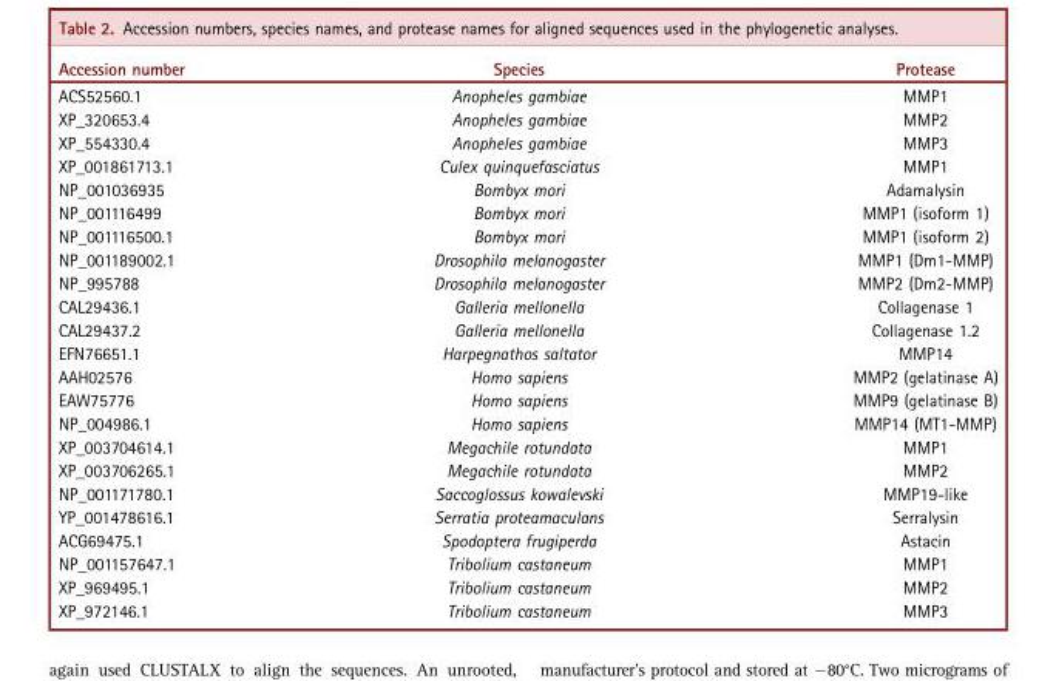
<table><thead><tr><td>Accession number</td><td>Species</td><td>Protease</td></tr></thead><tbody><tr><td>ACS52560.1</td><td>Anopheles gambiae</td><td>MMP1</td></tr><tr><td>XP_320653.4</td><td>Anopheles gambiae</td><td>MMP2</td></tr><tr><td>XP_554330.4</td><td>Anopheles gambiae</td><td>MMP3</td></tr><tr><td>XP_001861713.1</td><td>Culex quinquefasciatus</td><td>MMP1</td></tr><tr><td>NP_001036935</td><td>Bombyx mori</td><td>Adamalysin</td></tr><tr><td>NP_001116499</td><td>Bombyx mori</td><td>MMP1 (isoform 1)</td></tr><tr><td>NP_001116500.1</td><td>Bombyx mori</td><td>MMP1 (isoform 2)</td></tr><tr><td>NP_001189002.1</td><td>Drosophila melanogaster</td><td>MMP1 (Dm1‐MMP)</td></tr><tr><td>NP_995788</td><td>Drosophila melanogaster</td><td>MMP2 (Dm2‐MMP)</td></tr><tr><td>CAL29436.1</td><td>Galleria mellonella</td><td>Collagenase 1</td></tr><tr><td>CAL29437.2</td><td>Galleria mellonella</td><td>Collagenase 1.2</td></tr><tr><td>EFN76651.1</td><td>Harpegnathos saltator</td><td>MMP14</td></tr><tr><td>AAH02576</td><td>Homo sapiens</td><td>MMP2 (gelatinase A)</td></tr><tr><td>EAW75776</td><td>Homo sapiens</td><td>MMP9 (gelatinase B)</td></tr><tr><td>NP_004986.1</td><td>Homo sapiens</td><td>MMP14 (MT1‐MMP)</td></tr><tr><td>XP_003704614.1</td><td>Megachile rotundata</td><td>MMP1</td></tr><tr><td>XP_003706265.1</td><td>Megachile rotundata</td><td>MMP2</td></tr><tr><td>NP_001171780.1</td><td>Saccoglossus kowalevski</td><td>MMP19‐like</td></tr><tr><td>YP_001478616.1</td><td>Serratia proteamaculans</td><td>Serralysin</td></tr><tr><td>ACG69475.1</td><td>Spodoptera frugiperda</td><td>Astacin</td></tr><tr><td>NP_001157647.1</td><td>Tribolium castaneum</td><td>MMP1</td></tr><tr><td>XP_969495.1</td><td>Tribolium castaneum</td><td>MMP2</td></tr><tr><td>XP_972146.1</td><td>Tribolium castaneum</td><td>MMP3</td></tr></tbody></table>